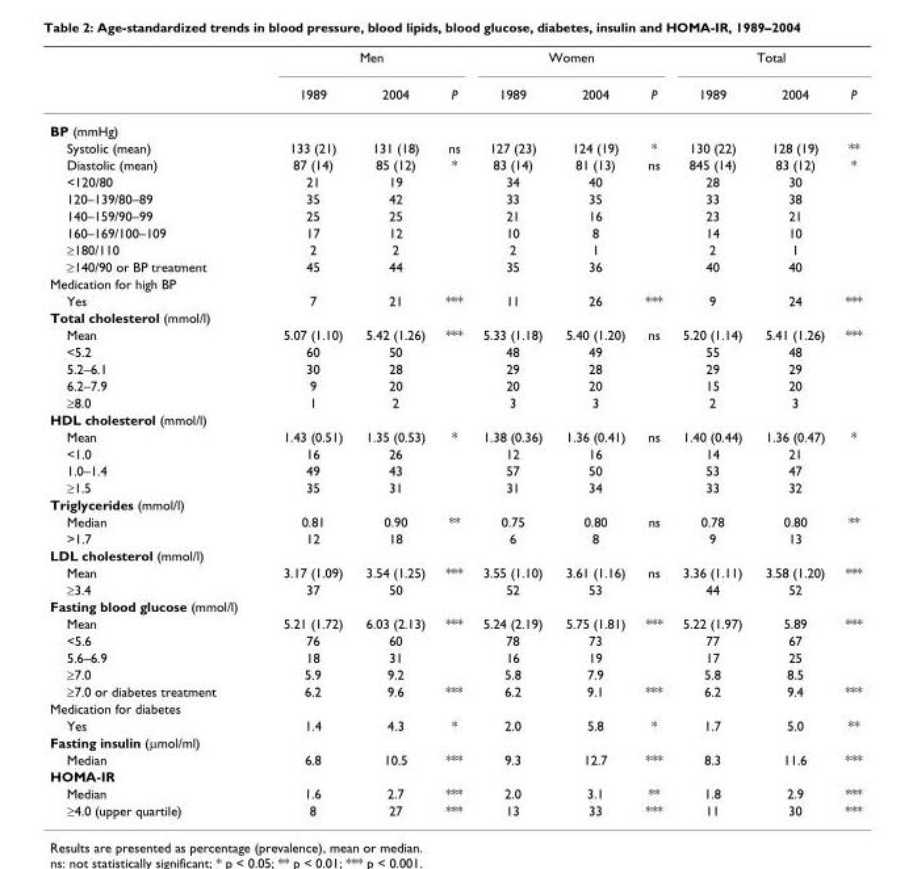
<table><thead><tr><td rowspan="2"></td><td colspan="3">Men</td><td colspan="3">Women</td><td colspan="3">Total</td></tr><tr><td>1989</td><td>2004</td><td>P</td><td>1989</td><td>2004</td><td>P</td><td>1989</td><td>2004</td><td>P</td></tr></thead><tbody><tr><td colspan="10">BP (mmHg)</td></tr><tr><td>Systolic (mean)</td><td>133 (21)</td><td>131 (18)</td><td>ns</td><td>127 (23)</td><td>124 (19)</td><td>*</td><td>130 (22)</td><td>128 (19)</td><td>**</td></tr><tr><td>Diastolic (mean)</td><td>87 (14)</td><td>85 (12)</td><td>*</td><td>83 (14)</td><td>81 (13)</td><td>ns</td><td>845 (14)</td><td>83 (12)</td><td>*</td></tr><tr><td>&lt;120/80</td><td>21</td><td>19</td><td></td><td>34</td><td>40</td><td></td><td>28</td><td>30</td><td></td></tr><tr><td>120–139/80–89</td><td>35</td><td>42</td><td></td><td>33</td><td>35</td><td></td><td>33</td><td>38</td><td></td></tr><tr><td>140–159/90–99</td><td>25</td><td>25</td><td></td><td>21</td><td>16</td><td></td><td>23</td><td>21</td><td></td></tr><tr><td>160–169/100–109</td><td>17</td><td>12</td><td></td><td>10</td><td>8</td><td></td><td>14</td><td>10</td><td></td></tr><tr><td>≥180/110</td><td>2</td><td>2</td><td></td><td>2</td><td>1</td><td></td><td>2</td><td>1</td><td></td></tr><tr><td>≥140/90 or BP treatment</td><td>45</td><td>44</td><td></td><td>35</td><td>36</td><td></td><td>40</td><td>40</td><td></td></tr><tr><td colspan="10">Medication for high BP</td></tr><tr><td>Yes</td><td>7</td><td>21</td><td>***</td><td>11</td><td>26</td><td>***</td><td>9</td><td>24</td><td>***</td></tr><tr><td colspan="10">Total cholesterol (mmol/l)</td></tr><tr><td>Mean</td><td>5.07 (1.10)</td><td>5.42 (1.26)</td><td>***</td><td>5.33 (1.18)</td><td>5.40 (1.20)</td><td>ns</td><td>5.20 (1.14)</td><td>5.41 (1.26)</td><td>***</td></tr><tr><td>&lt;5.2</td><td>60</td><td>50</td><td></td><td>48</td><td>49</td><td></td><td>55</td><td>48</td><td></td></tr><tr><td>5.2–6.1</td><td>30</td><td>28</td><td></td><td>29</td><td>28</td><td></td><td>29</td><td>29</td><td></td></tr><tr><td>6.2–7.9</td><td>9</td><td>20</td><td></td><td>20</td><td>20</td><td></td><td>15</td><td>20</td><td></td></tr><tr><td>≥8.0</td><td>1</td><td>2</td><td></td><td>3</td><td>3</td><td></td><td>2</td><td>3</td><td></td></tr><tr><td colspan="10">HDL cholesterol (mmol/l)</td></tr><tr><td>Mean</td><td>1.43 (0.51)</td><td>1.35 (0.53)</td><td>*</td><td>1.38 (0.36)</td><td>1.36 (0.41)</td><td>ns</td><td>1.40 (0.44)</td><td>1.36 (0.47)</td><td>*</td></tr><tr><td>&lt;1.0</td><td>16</td><td>26</td><td></td><td>12</td><td>16</td><td></td><td>14</td><td>21</td><td></td></tr><tr><td>1.0–1.4</td><td>49</td><td>43</td><td></td><td>57</td><td>50</td><td></td><td>53</td><td>47</td><td></td></tr><tr><td>≥1.5</td><td>35</td><td>31</td><td></td><td>31</td><td>34</td><td></td><td>33</td><td>32</td><td></td></tr><tr><td colspan="10">Triglycerides (mmol/l)</td></tr><tr><td>Median</td><td>0.81</td><td>0.90</td><td>**</td><td>0.75</td><td>0.80</td><td>ns</td><td>0.78</td><td>0.80</td><td>**</td></tr><tr><td>&gt;1.7</td><td>12</td><td>18</td><td></td><td>6</td><td>8</td><td></td><td>9</td><td>13</td><td></td></tr><tr><td colspan="10">LDL cholesterol (mmol/l)</td></tr><tr><td>Mean</td><td>3.17 (1.09)</td><td>3.54 (1.25)</td><td>***</td><td>3.55 (1.10)</td><td>3.61 (1.16)</td><td>ns</td><td>3.36 (1.11)</td><td>3.58 (1.20)</td><td>***</td></tr><tr><td>≥3.4</td><td>37</td><td>50</td><td></td><td>52</td><td>53</td><td></td><td>44</td><td>52</td><td></td></tr><tr><td colspan="10">Fasting blood glucose (mmol/l)</td></tr><tr><td>Mean</td><td>5.21 (1.72)</td><td>6.03 (2.13)</td><td>***</td><td>5.24 (2.19)</td><td>5.75 (1.81)</td><td>***</td><td>5.22 (1.97)</td><td>5.89</td><td>***</td></tr><tr><td>&lt;5.6</td><td>76</td><td>60</td><td></td><td>78</td><td>73</td><td></td><td>77</td><td>67</td><td></td></tr><tr><td>5.6–6.9</td><td>18</td><td>31</td><td></td><td>16</td><td>19</td><td></td><td>17</td><td>25</td><td></td></tr><tr><td>≥7.0</td><td>5.9</td><td>9.2</td><td></td><td>5.8</td><td>7.9</td><td></td><td>5.8</td><td>8.5</td><td></td></tr><tr><td>≥7.0 or diabetes treatment</td><td>6.2</td><td>9.6</td><td>***</td><td>6.2</td><td>9.1</td><td>***</td><td>6.2</td><td>9.4</td><td>***</td></tr><tr><td colspan="10">Medication for diabetes</td></tr><tr><td>Yes</td><td>1.4</td><td>4.3</td><td>*</td><td>2.0</td><td>5.8</td><td>*</td><td>1.7</td><td>5.0</td><td>**</td></tr><tr><td colspan="10">Fasting insulin (μmol/ml)</td></tr><tr><td>Median</td><td>6.8</td><td>10.5</td><td>***</td><td>9.3</td><td>12.7</td><td>***</td><td>8.3</td><td>11.6</td><td>***</td></tr><tr><td colspan="10">HOMA-IR</td></tr><tr><td>Median</td><td>1.6</td><td>2.7</td><td>***</td><td>2.0</td><td>3.1</td><td>**</td><td>1.8</td><td>2.9</td><td>***</td></tr><tr><td>≥4.0 (upper quartile)</td><td>8</td><td>27</td><td>***</td><td>13</td><td>33</td><td>***</td><td>11</td><td>30</td><td>***</td></tr></tbody></table>